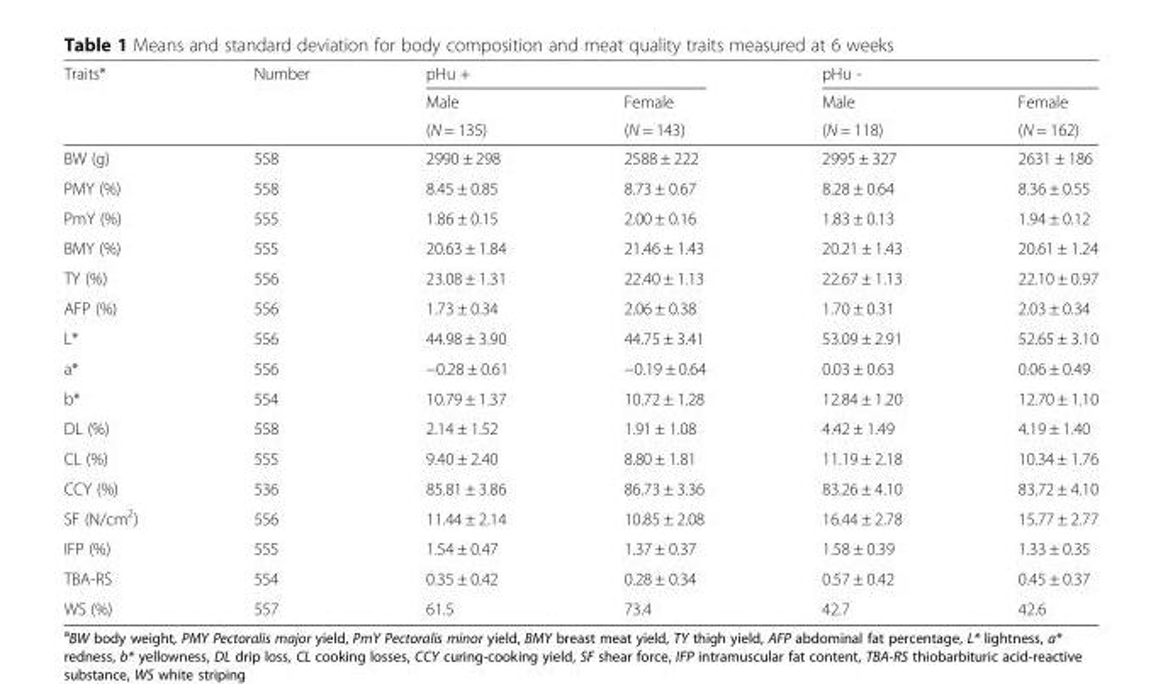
<table><thead><tr><td rowspan="3">Traits*</td><td rowspan="3">Number</td><td colspan="2">pHu +</td><td colspan="2">pHu -</td></tr><tr><td rowspan="2">Male (N = 135)</td><td rowspan="2">Female (N = 143)</td><td rowspan="2">Male (N = 118)</td><td rowspan="2">Female (N = 162)</td></tr><tr></tr></thead><tbody><tr><td>BW (g)</td><td>558</td><td>2990 ± 298</td><td>2588 ± 222</td><td>2995 ± 327</td><td>2631 ± 186</td></tr><tr><td>PMY (%)</td><td>558</td><td>8.45 ± 0.85</td><td>8.73 ± 0.67</td><td>8.28 ± 0.64</td><td>8.36 ± 0.55</td></tr><tr><td>PmY (%)</td><td>555</td><td>1.86 ± 0.15</td><td>2.00 ± 0.16</td><td>1.83 ± 0.13</td><td>1.94 ± 0.12</td></tr><tr><td>BMY (%)</td><td>555</td><td>20.63 ± 1.84</td><td>21.46 ± 1.43</td><td>20.21 ± 1.43</td><td>20.61 ± 1.24</td></tr><tr><td>TY (%)</td><td>556</td><td>23.08 ± 1.31</td><td>22.40 ± 1.13</td><td>22.67 ± 1.13</td><td>22.10 ± 0.97</td></tr><tr><td>AFP (%)</td><td>556</td><td>1.73 ± 0.34</td><td>2.06 ± 0.38</td><td>1.70 ± 0.31</td><td>2.03 ± 0.34</td></tr><tr><td>L*</td><td>556</td><td>44.98 ± 3.90</td><td>44.75 ± 3.41</td><td>53.09 ± 2.91</td><td>52.65 ± 3.10</td></tr><tr><td>a*</td><td>556</td><td>−0.28 ± 0.61</td><td>−0.19 ± 0.64</td><td>0.03 ± 0.63</td><td>0.06 ± 0.49</td></tr><tr><td>b*</td><td>554</td><td>10.79 ± 1.37</td><td>10.72 ± 1.28</td><td>12.84 ± 1.20</td><td>12.70 ± 1.10</td></tr><tr><td>DL (%)</td><td>558</td><td>2.14 ± 1.52</td><td>1.91 ± 1.08</td><td>4.42 ± 1.49</td><td>4.19 ± 1.40</td></tr><tr><td>CL (%)</td><td>555</td><td>9.40 ± 2.40</td><td>8.80 ± 1.81</td><td>11.19 ± 2.18</td><td>10.34 ± 1.76</td></tr><tr><td>CCY (%)</td><td>536</td><td>85.81 ± 3.86</td><td>86.73 ± 3.36</td><td>83.26 ± 4.10</td><td>83.72 ± 4.10</td></tr><tr><td>SF (N/cm<sup>2</sup>)</td><td>556</td><td>11.44 ± 2.14</td><td>10.85 ± 2.08</td><td>16.44 ± 2.78</td><td>15.77 ± 2.77</td></tr><tr><td>IFP (%)</td><td>555</td><td>1.54 ± 0.47</td><td>1.37 ± 0.37</td><td>1.58 ± 0.39</td><td>1.33 ± 0.35</td></tr><tr><td>TBA-RS</td><td>554</td><td>0.35 ± 0.42</td><td>0.28 ± 0.34</td><td>0.57 ± 0.42</td><td>0.45 ± 0.37</td></tr><tr><td>WS (%)</td><td>557</td><td>61.5</td><td>73.4</td><td>42.7</td><td>42.6</td></tr></tbody></table>